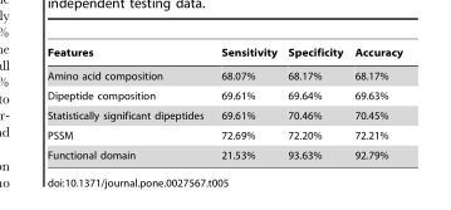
<table><thead><tr><td>Features</td><td>Sensitivity</td><td>Specificity</td><td>Accuracy</td></tr></thead><tbody><tr><td>Amino acid composition</td><td>68.07%</td><td>68.17%</td><td>68.17%</td></tr><tr><td>Dipeptide composition</td><td>69.61%</td><td>69.64%</td><td>69.63%</td></tr><tr><td>Statistically significant dipeptides</td><td>69.61%</td><td>70.46%</td><td>70.45%</td></tr><tr><td>PSSM</td><td>72.69%</td><td>72.20%</td><td>72.21%</td></tr><tr><td>Functional domain</td><td>21.53%</td><td>93.63%</td><td>92.79%</td></tr></tbody></table>